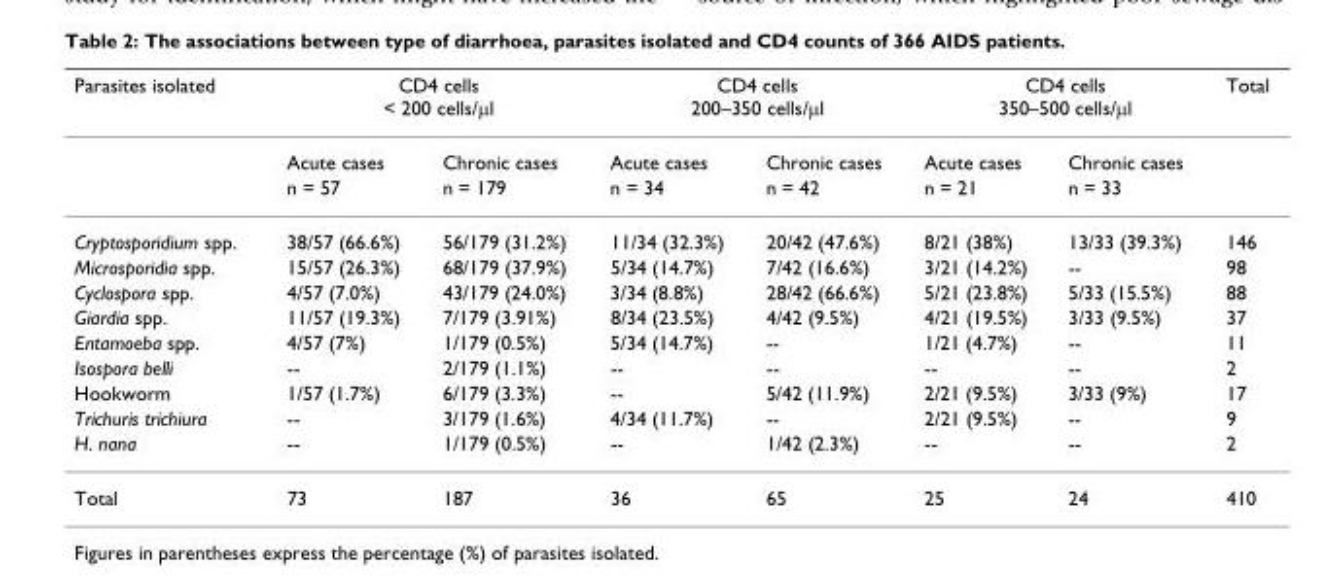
<table><thead><tr><td rowspan="2">Parasites isolated</td><td colspan="2">CD4 cells &lt; 200 cells/μl</td><td colspan="2">CD4 cells 200–350 cells/μl</td><td colspan="2">CD4 cells 350–500 cells/μl</td><td rowspan="2">Total</td></tr><tr><td>Acute cases</td><td>Chronic cases</td><td>Acute cases</td><td>Chronic cases</td><td>Acute cases</td><td>Chronic cases</td></tr></thead><tbody><tr><td></td><td>n = 57</td><td>n = 179</td><td>n = 34</td><td>n = 42</td><td>n = 21</td><td>n = 33</td><td></td></tr><tr><td>Cryptosporidium spp.</td><td>38/57 (66.6%)</td><td>56/179 (31.2%)</td><td>11/34 (32.3%)</td><td>20/42 (47.6%)</td><td>8/21 (38%)</td><td>13/33 (39.3%)</td><td>146</td></tr><tr><td>Microsporidia spp.</td><td>15/57 (26.3%)</td><td>68/179 (37.9%)</td><td>5/34 (14.7%)</td><td>7/42 (16.6%)</td><td>3/21 (14.2%)</td><td>--</td><td>98</td></tr><tr><td>Cyclospora spp.</td><td>4/57 (7.0%)</td><td>43/179 (24.0%)</td><td>3/34 (8.8%)</td><td>28/42 (66.6%)</td><td>5/21 (23.8%)</td><td>5/33 (15.5%)</td><td>88</td></tr><tr><td>Giardia spp.</td><td>11/57 (19.3%)</td><td>7/179 (3.91%)</td><td>8/34 (23.5%)</td><td>4/42 (9.5%)</td><td>4/21 (19.5%)</td><td>3/33 (9.5%)</td><td>37</td></tr><tr><td>Entamoeba spp.</td><td>4/57 (7%)</td><td>1/179 (0.5%)</td><td>5/34 (14.7%)</td><td>--</td><td>1/21 (4.7%)</td><td>--</td><td>11</td></tr><tr><td>Isospora belli</td><td>--</td><td>2/179 (1.1%)</td><td>--</td><td>--</td><td>--</td><td>--</td><td>2</td></tr><tr><td>Hookworm</td><td>1/57 (1.7%)</td><td>6/179 (3.3%)</td><td>--</td><td>5/42 (11.9%)</td><td>2/21 (9.5%)</td><td>3/33 (9%)</td><td>17</td></tr><tr><td>Trichuris trichiura</td><td>--</td><td>3/179 (1.6%)</td><td>4/34 (11.7%)</td><td>--</td><td>2/21 (9.5%)</td><td>--</td><td>9</td></tr><tr><td>H. nana</td><td>--</td><td>1/179 (0.5%)</td><td>--</td><td>1/42 (2.3%)</td><td>--</td><td>--</td><td>2</td></tr><tr><td>Total</td><td>73</td><td>187</td><td>36</td><td>65</td><td>25</td><td>24</td><td>410</td></tr></tbody></table>